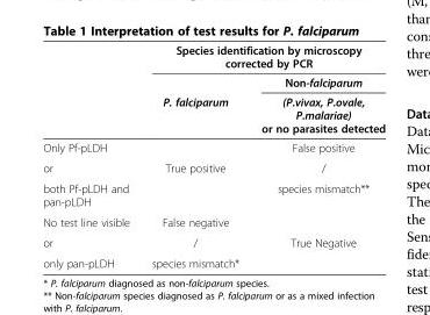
<table><thead><tr><td rowspan="3"></td><td colspan="2">Species identification by microscopy corrected by PCR</td></tr><tr><td rowspan="2">P. falciparum</td><td rowspan="2">Non-falciparum (P.vivax, P.ovale, P.malariae) or no parasites detected</td></tr><tr></tr></thead><tbody><tr><td>Only Pf-pLDH</td><td></td><td>False positive</td></tr><tr><td>or</td><td>True positive</td><td>/</td></tr><tr><td>both Pf-pLDH and pan-pLDH</td><td></td><td>species mismatch**</td></tr><tr><td>No test line visible</td><td>False negative</td><td></td></tr><tr><td>or</td><td>/</td><td>True Negative</td></tr><tr><td>only pan-pLDH</td><td>species mismatch*</td><td></td></tr></tbody></table>